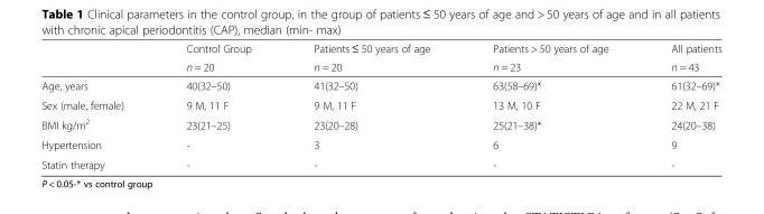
<table><thead><tr><td rowspan="2"></td><td rowspan="2">Control Group n = 20</td><td rowspan="2">Patients ≤ 50 years of age n = 20</td><td rowspan="2">Patients &gt; 50 years of age n = 23</td><td rowspan="2">All patients n = 43</td></tr><tr></tr></thead><tbody><tr><td>Age, years</td><td>40(32–50)</td><td>41(32–50)</td><td>63(58–69)*</td><td>61(32–69)*</td></tr><tr><td>Sex (male, female)</td><td>9 M, 11 F</td><td>9 M, 11 F</td><td>13 M, 10 F</td><td>22 M, 21 F</td></tr><tr><td>BMI kg/m<sup>2</sup></td><td>23(21–25)</td><td>23(20–28)</td><td>25(21–38)*</td><td>24(20–38)</td></tr><tr><td>Hypertension</td><td>-</td><td>3</td><td>6</td><td>9</td></tr><tr><td>Statin therapy</td><td>-</td><td>-</td><td>-</td><td>-</td></tr></tbody></table>